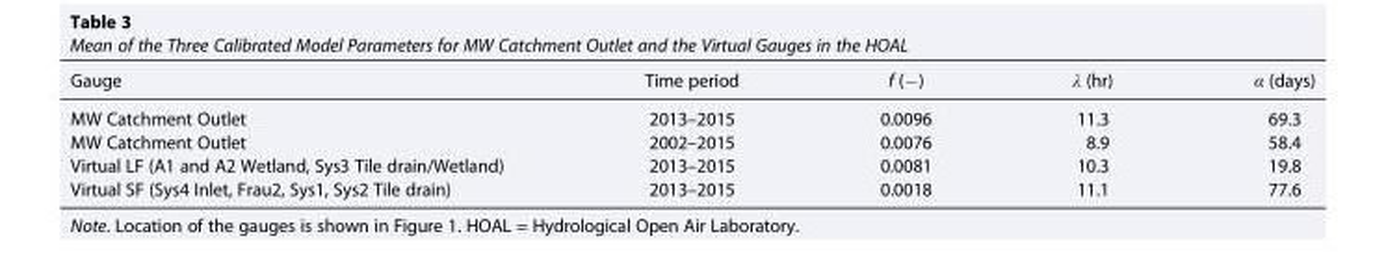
<table><thead><tr><td>Gauge</td><td>Time period</td><td>f (−)</td><td>λ (hr)</td><td>α (days)</td></tr></thead><tbody><tr><td>MW Catchment Outlet</td><td>2013–2015</td><td>0.0096</td><td>11.3</td><td>69.3</td></tr><tr><td>MW Catchment Outlet</td><td>2002–2015</td><td>0.0076</td><td>8.9</td><td>58.4</td></tr><tr><td>Virtual LF (A1 and A2 Wetland, Sys3 Tile drain/Wetland)</td><td>2013–2015</td><td>0.0081</td><td>10.3</td><td>19.8</td></tr><tr><td>Virtual SF (Sys4 Inlet, Frau2, Sys1, Sys2 Tile drain)</td><td>2013–2015</td><td>0.0018</td><td>11.1</td><td>77.6</td></tr></tbody></table>